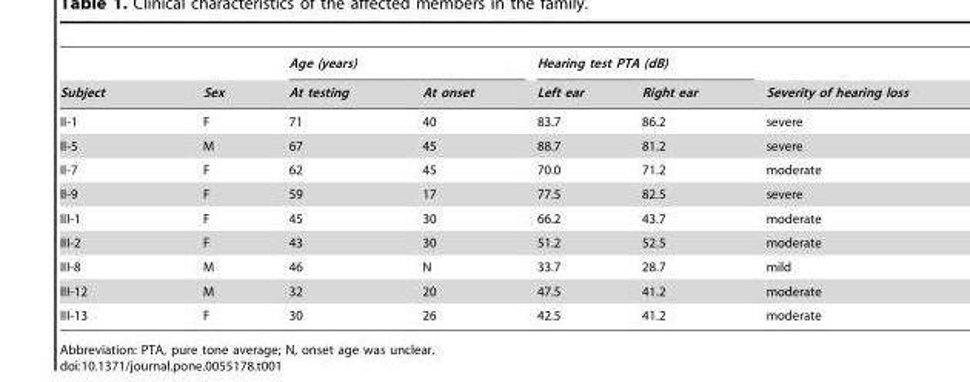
<table><thead><tr><td rowspan="2">Subject</td><td rowspan="2">Sex</td><td colspan="2">Age (years)</td><td colspan="2">Hearing test PTA (dB)</td><td rowspan="2">Severity of hearing loss</td></tr><tr><td>At testing</td><td>At onset</td><td>Left ear</td><td>Right ear</td></tr></thead><tbody><tr><td>II-1</td><td>F</td><td>71</td><td>40</td><td>83.7</td><td>86.2</td><td>severe</td></tr><tr><td>II-5</td><td>M</td><td>67</td><td>45</td><td>88.7</td><td>81.2</td><td>severe</td></tr><tr><td>II-7</td><td>F</td><td>62</td><td>45</td><td>70.0</td><td>71.2</td><td>moderate</td></tr><tr><td>II-9</td><td>F</td><td>59</td><td>17</td><td>77.5</td><td>82.5</td><td>severe</td></tr><tr><td>III-1</td><td>F</td><td>45</td><td>30</td><td>66.2</td><td>43.7</td><td>moderate</td></tr><tr><td>III-2</td><td>F</td><td>43</td><td>30</td><td>51.2</td><td>52.5</td><td>moderate</td></tr><tr><td>III-8</td><td>M</td><td>46</td><td>N</td><td>33.7</td><td>28.7</td><td>mild</td></tr><tr><td>III-12</td><td>M</td><td>32</td><td>20</td><td>47.5</td><td>41.2</td><td>moderate</td></tr><tr><td>III-13</td><td>F</td><td>30</td><td>26</td><td>42.5</td><td>41.2</td><td>moderate</td></tr></tbody></table>